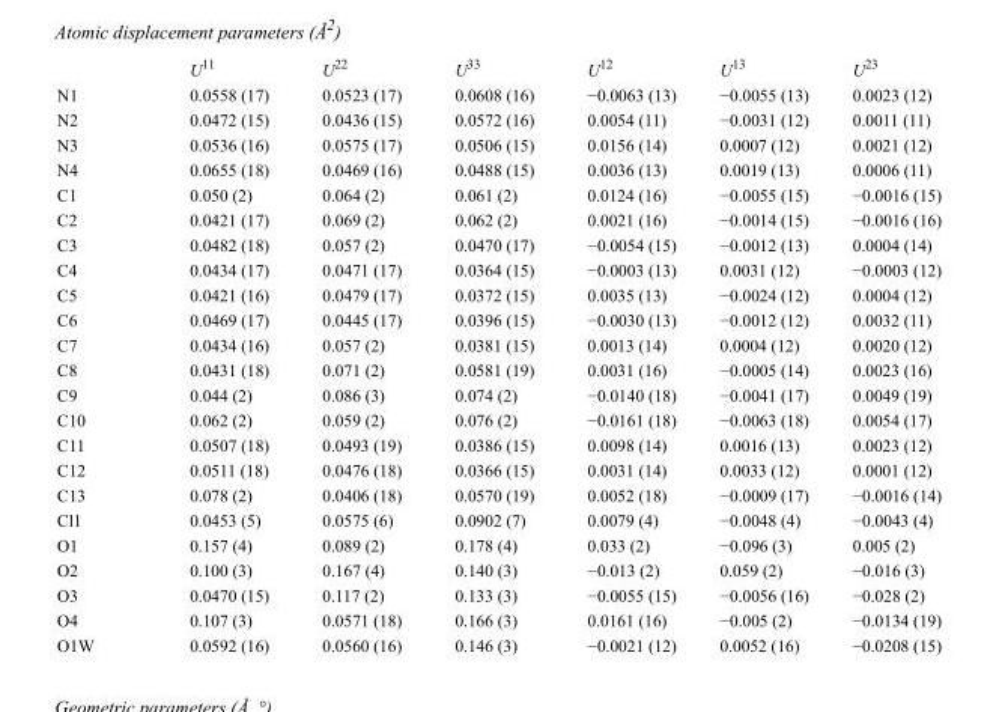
<table><thead><tr><td></td><td>U<sup>11</sup></td><td>U<sup>22</sup></td><td>U<sup>33</sup></td><td>U<sup>12</sup></td><td>U<sup>13</sup></td><td>U<sup>23</sup></td></tr></thead><tbody><tr><td>N1</td><td>0.0558 (17)</td><td>0.0523 (17)</td><td>0.0608 (16)</td><td>−0.0063 (13)</td><td>−0.0055 (13)</td><td>0.0023 (12)</td></tr><tr><td>N2</td><td>0.0472 (15)</td><td>0.0436 (15)</td><td>0.0572 (16)</td><td>0.0054 (11)</td><td>−0.0031 (12)</td><td>0.0011 (11)</td></tr><tr><td>N3</td><td>0.0536 (16)</td><td>0.0575 (17)</td><td>0.0506 (15)</td><td>0.0156 (14)</td><td>0.0007 (12)</td><td>0.0021 (12)</td></tr><tr><td>N4</td><td>0.0655 (18)</td><td>0.0469 (16)</td><td>0.0488 (15)</td><td>0.0036 (13)</td><td>0.0019 (13)</td><td>0.0006 (11)</td></tr><tr><td>C1</td><td>0.050 (2)</td><td>0.064 (2)</td><td>0.061 (2)</td><td>0.0124 (16)</td><td>−0.0055 (15)</td><td>−0.0016 (15)</td></tr><tr><td>C2</td><td>0.0421 (17)</td><td>0.069 (2)</td><td>0.062 (2)</td><td>0.0021 (16)</td><td>−0.0014 (15)</td><td>−0.0016 (16)</td></tr><tr><td>C3</td><td>0.0482 (18)</td><td>0.057 (2)</td><td>0.0470 (17)</td><td>−0.0054 (15)</td><td>−0.0012 (13)</td><td>0.0004 (14)</td></tr><tr><td>C4</td><td>0.0434 (17)</td><td>0.0471 (17)</td><td>0.0364 (15)</td><td>−0.0003 (13)</td><td>0.0031 (12)</td><td>−0.0003 (12)</td></tr><tr><td>C5</td><td>0.0421 (16)</td><td>0.0479 (17)</td><td>0.0372 (15)</td><td>0.0035 (13)</td><td>−0.0024 (12)</td><td>0.0004 (12)</td></tr><tr><td>C6</td><td>0.0469 (17)</td><td>0.0445 (17)</td><td>0.0396 (15)</td><td>−0.0030 (13)</td><td>−0.0012 (12)</td><td>0.0032 (11)</td></tr><tr><td>C7</td><td>0.0434 (16)</td><td>0.057 (2)</td><td>0.0381 (15)</td><td>0.0013 (14)</td><td>0.0004 (12)</td><td>0.0020 (12)</td></tr><tr><td>C8</td><td>0.0431 (18)</td><td>0.071 (2)</td><td>0.0581 (19)</td><td>0.0031 (16)</td><td>−0.0005 (14)</td><td>0.0023 (16)</td></tr><tr><td>C9</td><td>0.044 (2)</td><td>0.086 (3)</td><td>0.074 (2)</td><td>−0.0140 (18)</td><td>−0.0041 (17)</td><td>0.0049 (19)</td></tr><tr><td>C10</td><td>0.062 (2)</td><td>0.059 (2)</td><td>0.076 (2)</td><td>−0.0161 (18)</td><td>−0.0063 (18)</td><td>0.0054 (17)</td></tr><tr><td>C11</td><td>0.0507 (18)</td><td>0.0493 (19)</td><td>0.0386 (15)</td><td>0.0098 (14)</td><td>0.0016 (13)</td><td>0.0023 (12)</td></tr><tr><td>C12</td><td>0.0511 (18)</td><td>0.0476 (18)</td><td>0.0366 (15)</td><td>0.0031 (14)</td><td>0.0033 (12)</td><td>0.0001 (12)</td></tr><tr><td>C13</td><td>0.078 (2)</td><td>0.0406 (18)</td><td>0.0570 (19)</td><td>0.0052 (18)</td><td>−0.0009 (17)</td><td>−0.0016 (14)</td></tr><tr><td>Cl1</td><td>0.0453 (5)</td><td>0.0575 (6)</td><td>0.0902 (7)</td><td>0.0079 (4)</td><td>−0.0048 (4)</td><td>−0.0043 (4)</td></tr><tr><td>O1</td><td>0.157 (4)</td><td>0.089 (2)</td><td>0.178 (4)</td><td>0.033 (2)</td><td>−0.096 (3)</td><td>0.005 (2)</td></tr><tr><td>O2</td><td>0.100 (3)</td><td>0.167 (4)</td><td>0.140 (3)</td><td>−0.013 (2)</td><td>0.059 (2)</td><td>−0.016 (3)</td></tr><tr><td>O3</td><td>0.0470 (15)</td><td>0.117 (2)</td><td>0.133 (3)</td><td>−0.0055 (15)</td><td>−0.0056 (16)</td><td>−0.028 (2)</td></tr><tr><td>O4</td><td>0.107 (3)</td><td>0.0571 (18)</td><td>0.166 (3)</td><td>0.0161 (16)</td><td>−0.005 (2)</td><td>−0.0134 (19)</td></tr><tr><td>O1W</td><td>0.0592 (16)</td><td>0.0560 (16)</td><td>0.146 (3)</td><td>−0.0021 (12)</td><td>0.0052 (16)</td><td>−0.0208 (15)</td></tr></tbody></table>